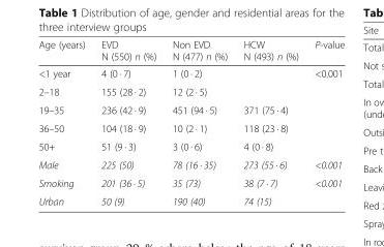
<table><thead><tr><td>Age (years)</td><td>EVD N (550) n (%)</td><td>Non EVD N (477) n (%)</td><td>HCW N (493) n (%)</td><td>P-value</td></tr></thead><tbody><tr><td>&lt;1 year</td><td>4 (0 · 7)</td><td>1 (0 · 2)</td><td></td><td rowspan="5">&lt;0.001</td></tr><tr><td>2–18</td><td>155 (28 · 2)</td><td>12 (2 · 5)</td><td></td></tr><tr><td>19–35</td><td>236 (42 · 9)</td><td>451 (94 · 5)</td><td>371 (75 · 4)</td></tr><tr><td>36–50</td><td>104 (18 · 9)</td><td>10 (2 · 1)</td><td>118 (23 · 8)</td></tr><tr><td>50+</td><td>51 (9 · 3)</td><td>3 (0 · 6)</td><td>4 (0 · 8)</td></tr><tr><td>Male</td><td>225 (50)</td><td>78 (16 · 35)</td><td>273 (55 · 6)</td><td>&lt;0.001</td></tr><tr><td>Smoking</td><td>201 (36 · 5)</td><td>35 (73)</td><td>38 (7 · 7)</td><td>&lt;0.001</td></tr><tr><td>Urban</td><td>50 (9)</td><td>190 (40)</td><td>74 (15)</td><td></td></tr></tbody></table>